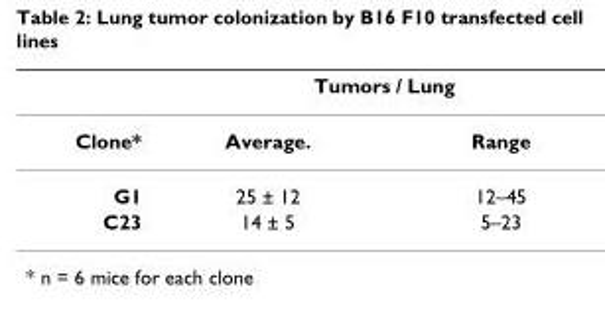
<table><thead><tr><td rowspan="2">Clone*</td><td colspan="2">Tumors / Lung</td></tr><tr><td>Average.</td><td>Range</td></tr></thead><tbody><tr><td>G1</td><td>25 ± 12</td><td>12–45</td></tr><tr><td>C23</td><td>14 ± 5</td><td>5–23</td></tr></tbody></table>